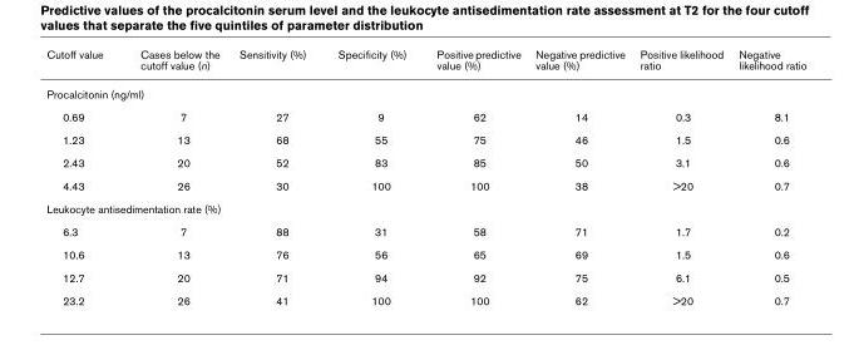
<table><thead><tr><td>Cutoff value</td><td>Cases below the cutoff value (n)</td><td>Sensitivity (%)</td><td>Specificity (%)</td><td>Positive predictive value (%)</td><td>Negative predictive value (%)</td><td>Positive likelihood ratio</td><td>Negative likelihood ratio</td></tr></thead><tbody><tr><td colspan="8">Procalcitonin (ng/ml)</td></tr><tr><td>0.69</td><td>7</td><td>27</td><td>9</td><td>62</td><td>14</td><td>0.3</td><td>8.1</td></tr><tr><td>1.23</td><td>13</td><td>68</td><td>55</td><td>75</td><td>46</td><td>1.5</td><td>0.6</td></tr><tr><td>2.43</td><td>20</td><td>52</td><td>83</td><td>85</td><td>50</td><td>3.1</td><td>0.6</td></tr><tr><td>4.43</td><td>26</td><td>30</td><td>100</td><td>100</td><td>38</td><td>&gt;20</td><td>0.7</td></tr><tr><td colspan="8">Leukocyte antisedimentation rate (%)</td></tr><tr><td>6.3</td><td>7</td><td>88</td><td>31</td><td>58</td><td>71</td><td>1.7</td><td>0.2</td></tr><tr><td>10.6</td><td>13</td><td>76</td><td>56</td><td>65</td><td>69</td><td>1.5</td><td>0.6</td></tr><tr><td>12.7</td><td>20</td><td>71</td><td>94</td><td>92</td><td>75</td><td>6.1</td><td>0.5</td></tr><tr><td>23.2</td><td>26</td><td>41</td><td>100</td><td>100</td><td>62</td><td>&gt;20</td><td>0.7</td></tr></tbody></table>